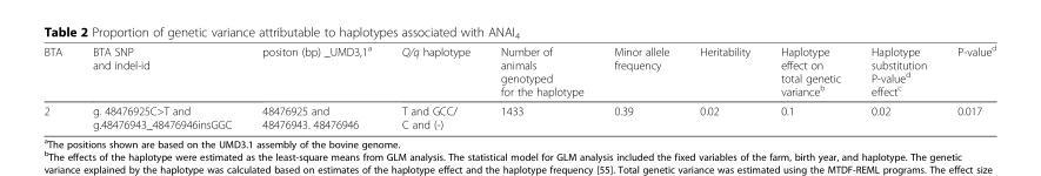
<table><thead><tr><td>BTA</td><td>BTA SNP and indel-id</td><td>positon (bp) _UMD3,1<sup>a</sup></td><td>Q/q haplotype</td><td>Number of animals genotyped for the haplotype</td><td>Minor allele frequency</td><td>Heritability</td><td>Haplotype effect on total genetic variance<sup>b</sup></td><td>Haplotype substitution P-value<sup>d</sup> effect<sup>c</sup></td><td>P-value<sup>d</sup></td></tr></thead><tbody><tr><td>2</td><td>g. 48476925C&gt;T and g.48476943_48476946insGGC</td><td>48476925 and 48476943. 48476946</td><td>T and GCC/ C and (-)</td><td>1433</td><td>0.39</td><td>0.02</td><td>0.1</td><td>0.02</td><td>0.017</td></tr></tbody></table>